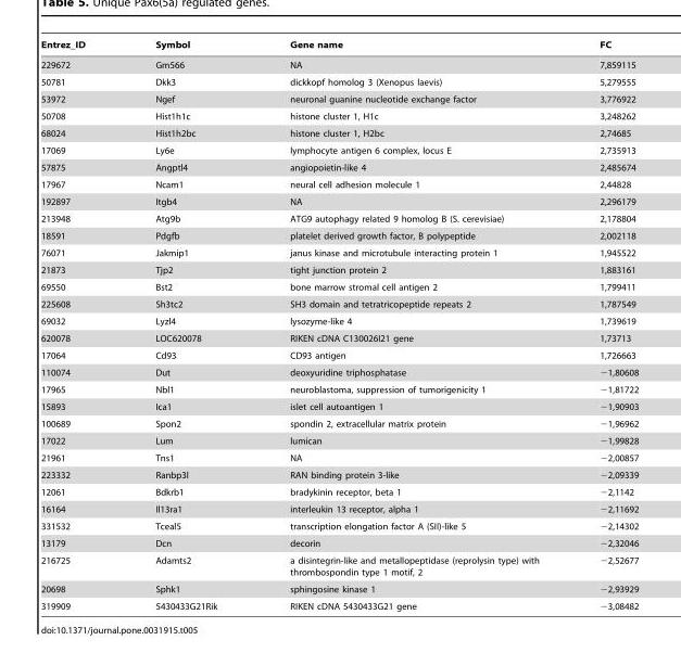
<table><thead><tr><td>Entrez_ID</td><td>Symbol</td><td>Gene name</td><td>FC</td></tr></thead><tbody><tr><td>229672</td><td>Gm566</td><td>NA</td><td>7,859115</td></tr><tr><td>50781</td><td>Dkk3</td><td>dickkopf homolog 3 (Xenopus laevis)</td><td>5,279555</td></tr><tr><td>53972</td><td>Ngef</td><td>neuronal guanine nucleotide exchange factor</td><td>3,776922</td></tr><tr><td>50708</td><td>Hist1h1c</td><td>histone cluster 1, H1c</td><td>3,248262</td></tr><tr><td>68024</td><td>Hist1h2bc</td><td>histone cluster 1, H2bc</td><td>2,74685</td></tr><tr><td>17069</td><td>Ly6e</td><td>lymphocyte antigen 6 complex, locus E</td><td>2,735913</td></tr><tr><td>57875</td><td>Angptl4</td><td>angiopoietin-like 4</td><td>2,485674</td></tr><tr><td>17967</td><td>Ncam1</td><td>neural cell adhesion molecule 1</td><td>2,44828</td></tr><tr><td>192897</td><td>Itgb4</td><td>NA</td><td>2,296179</td></tr><tr><td>213948</td><td>Atg9b</td><td>ATG9 autophagy related 9 homolog B (S. cerevisiae)</td><td>2,178804</td></tr><tr><td>18591</td><td>Pdgfb</td><td>platelet derived growth factor, B polypeptide</td><td>2,002118</td></tr><tr><td>76071</td><td>Jakmip1</td><td>janus kinase and microtubule interacting protein 1</td><td>1,945522</td></tr><tr><td>21873</td><td>Tjp2</td><td>tight junction protein 2</td><td>1,883161</td></tr><tr><td>69550</td><td>Bst2</td><td>bone marrow stromal cell antigen 2</td><td>1,799411</td></tr><tr><td>225608</td><td>Sh3tc2</td><td>SH3 domain and tetratricopeptide repeats 2</td><td>1,787549</td></tr><tr><td>69032</td><td>Lyzl4</td><td>lysozyme-like 4</td><td>1,739619</td></tr><tr><td>620078</td><td>LOC620078</td><td>RIKEN cDNA C130026I21 gene</td><td>1,73713</td></tr><tr><td>17064</td><td>Cd93</td><td>CD93 antigen</td><td>1,726663</td></tr><tr><td>110074</td><td>Dut</td><td>deoxyuridine triphosphatase</td><td>−1,80608</td></tr><tr><td>17965</td><td>Nbl1</td><td>neuroblastoma, suppression of tumorigenicity 1</td><td>−1,81722</td></tr><tr><td>15893</td><td>Ica1</td><td>islet cell autoantigen 1</td><td>−1,90903</td></tr><tr><td>100689</td><td>Spon2</td><td>spondin 2, extracellular matrix protein</td><td>−1,96962</td></tr><tr><td>17022</td><td>Lum</td><td>lumican</td><td>−1,99828</td></tr><tr><td>21961</td><td>Tns1</td><td>NA</td><td>−2,00857</td></tr><tr><td>223332</td><td>Ranbp3l</td><td>RAN binding protein 3-like</td><td>−2,09339</td></tr><tr><td>12061</td><td>Bdkrb1</td><td>bradykinin receptor, beta 1</td><td>−2,1142</td></tr><tr><td>16164</td><td>Il13ra1</td><td>interleukin 13 receptor, alpha 1</td><td>−2,11692</td></tr><tr><td>331532</td><td>Tceal5</td><td>transcription elongation factor A (SII)-like 5</td><td>−2,14302</td></tr><tr><td>13179</td><td>Dcn</td><td>decorin</td><td>−2,32046</td></tr><tr><td>216725</td><td>Adamts2</td><td>a disintegrin-like and metallopeptidase (reprolysin type) with thrombospondin type 1 motif, 2</td><td>−2,52677</td></tr><tr><td>20698</td><td>Sphk1</td><td>sphingosine kinase 1</td><td>−2,93929</td></tr><tr><td>319909</td><td>5430433G21Rik</td><td>RIKEN cDNA 5430433G21 gene</td><td>−3,08482</td></tr></tbody></table>